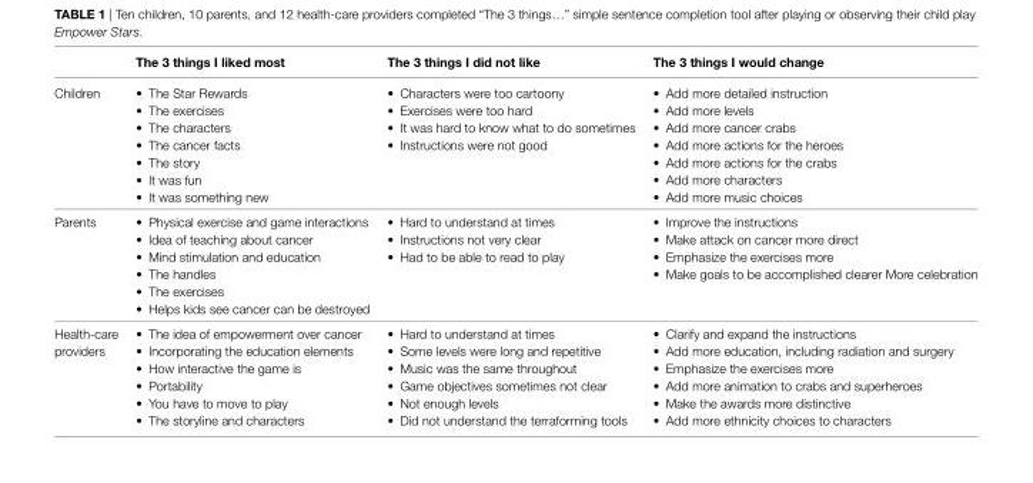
<table><thead><tr><td></td><td>The 3 things i liked most</td><td>The 3 things i did not like</td><td>The 3 things i would change</td></tr></thead><tbody><tr><td>Children</td><td>• The Star Rewards • The exercises • The characters • The cancer facts • The story • It was fun • It was something new</td><td>• Characters were too cartoony • Exercises were too hard • It was hard to know what to do sometimes • Instructions were not good</td><td>• Add more detailed instruction • Add more levels • Add more cancer crabs • Add more actions for the heroes • Add more actions for the crabs • Add more characters • Add more music choices</td></tr><tr><td>Parents</td><td>• Physical exercise and game interactions • Idea of teaching about cancer • Mind stimulation and education • The handles • The exercises • Helps kids see cancer can be destroyed</td><td>• Hard to understand at times • Instructions not very clear • Had to be able to read to play</td><td>• Improve the instructions • Make attack on cancer more direct • Emphasize the exercises more • Make goals to be accomplished clearer More celebration</td></tr><tr><td>Health-care providers</td><td>• The idea of empowerment over cancer • Incorporating the education elements • How interactive the game is • Portability • You have to move to play • The storyline and characters</td><td>• Hard to understand at times • Some levels were long and repetitive • Music was the same throughout • Game objectives sometimes not clear • Not enough levels • Did not understand the terraforming tools</td><td>• Clarify and expand the instructions • Add more education, including radiation and surgery • Emphasize the exercises more • Add more animation to crabs and superheroes • Make the awards more distinctive • Add more ethnicity choices to characters</td></tr></tbody></table>